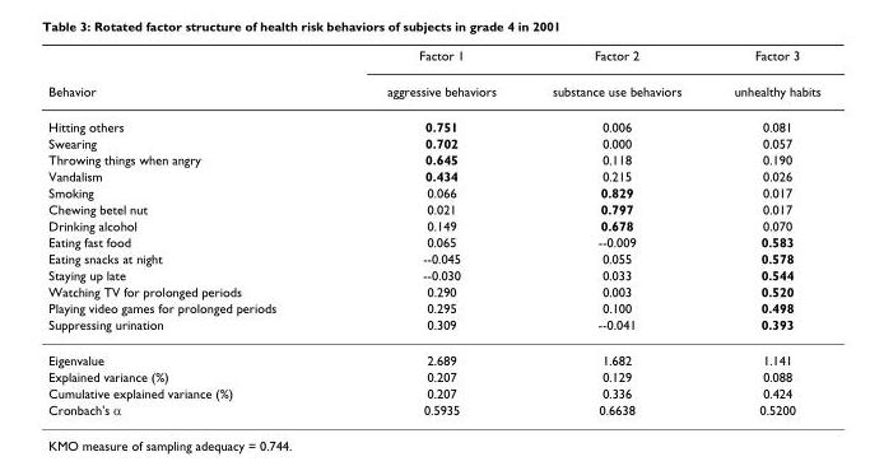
<table><thead><tr><td rowspan="2">Behavior</td><td rowspan="2">Factor 1 aggressive behaviors</td><td rowspan="2">Factor 2 substance use behaviors</td><td rowspan="2">Factor 3 unhealthy habits</td></tr><tr></tr></thead><tbody><tr><td>Hitting others</td><td>0.751</td><td>0.006</td><td>0.081</td></tr><tr><td>Swearing</td><td>0.702</td><td>0.000</td><td>0.057</td></tr><tr><td>Throwing things when angry</td><td>0.645</td><td>0.118</td><td>0.190</td></tr><tr><td>Vandalism</td><td>0.434</td><td>0.215</td><td>0.026</td></tr><tr><td>Smoking</td><td>0.066</td><td>0.829</td><td>0.017</td></tr><tr><td>Chewing betel nut</td><td>0.021</td><td>0.797</td><td>0.017</td></tr><tr><td>Drinking alcohol</td><td>0.149</td><td>0.678</td><td>0.070</td></tr><tr><td>Eating fast food</td><td>0.065</td><td>--0.009</td><td>0.583</td></tr><tr><td>Eating snacks at night</td><td>--0.045</td><td>0.055</td><td>0.578</td></tr><tr><td>Staying up late</td><td>--0.030</td><td>0.033</td><td>0.544</td></tr><tr><td>Watching TV for prolonged periods</td><td>0.290</td><td>0.003</td><td>0.520</td></tr><tr><td>Playing video games for prolonged periods</td><td>0.295</td><td>0.100</td><td>0.498</td></tr><tr><td>Suppressing urination</td><td>0.309</td><td>--0.041</td><td>0.393</td></tr><tr><td>Eigenvalue</td><td>2.689</td><td>1.682</td><td>1.141</td></tr><tr><td>Explained variance (%)</td><td>0.207</td><td>0.129</td><td>0.088</td></tr><tr><td>Cumulative explained variance (%)</td><td>0.207</td><td>0.336</td><td>0.424</td></tr><tr><td>Cronbach&#x27;s α</td><td>0.5935</td><td>0.6638</td><td>0.5200</td></tr></tbody></table>